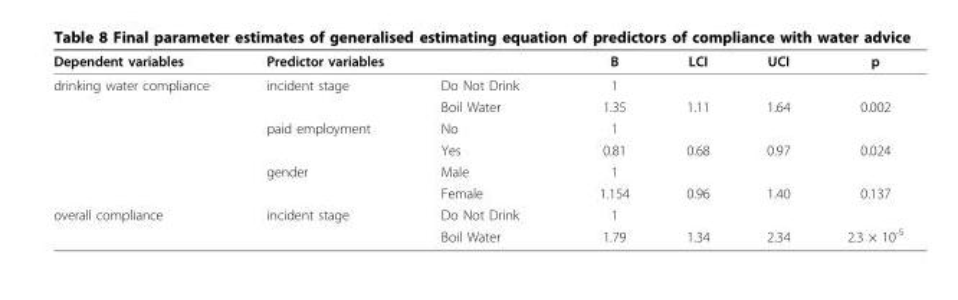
<table><thead><tr><td>Dependent variables</td><td>Predictor variables</td><td></td><td>B</td><td>LCI</td><td>UCI</td><td>p</td></tr></thead><tbody><tr><td rowspan="6">drinking water compliance</td><td>incident stage</td><td>Do Not Drink</td><td>1</td><td></td><td></td><td></td></tr><tr><td></td><td>Boil Water</td><td>1.35</td><td>1.11</td><td>1.64</td><td>0.002</td></tr><tr><td>paid employment</td><td>No</td><td>1</td><td></td><td></td><td></td></tr><tr><td></td><td>Yes</td><td>0.81</td><td>0.68</td><td>0.97</td><td>0.024</td></tr><tr><td>gender</td><td>Male</td><td>1</td><td></td><td></td><td></td></tr><tr><td></td><td>Female</td><td>1.154</td><td>0.96</td><td>1.40</td><td>0.137</td></tr><tr><td rowspan="2">overall compliance</td><td>incident stage</td><td>Do Not Drink</td><td>1</td><td></td><td></td><td></td></tr><tr><td></td><td>Boil Water</td><td>1.79</td><td>1.34</td><td>2.34</td><td>2.3 × 10<sup>-5</sup></td></tr></tbody></table>